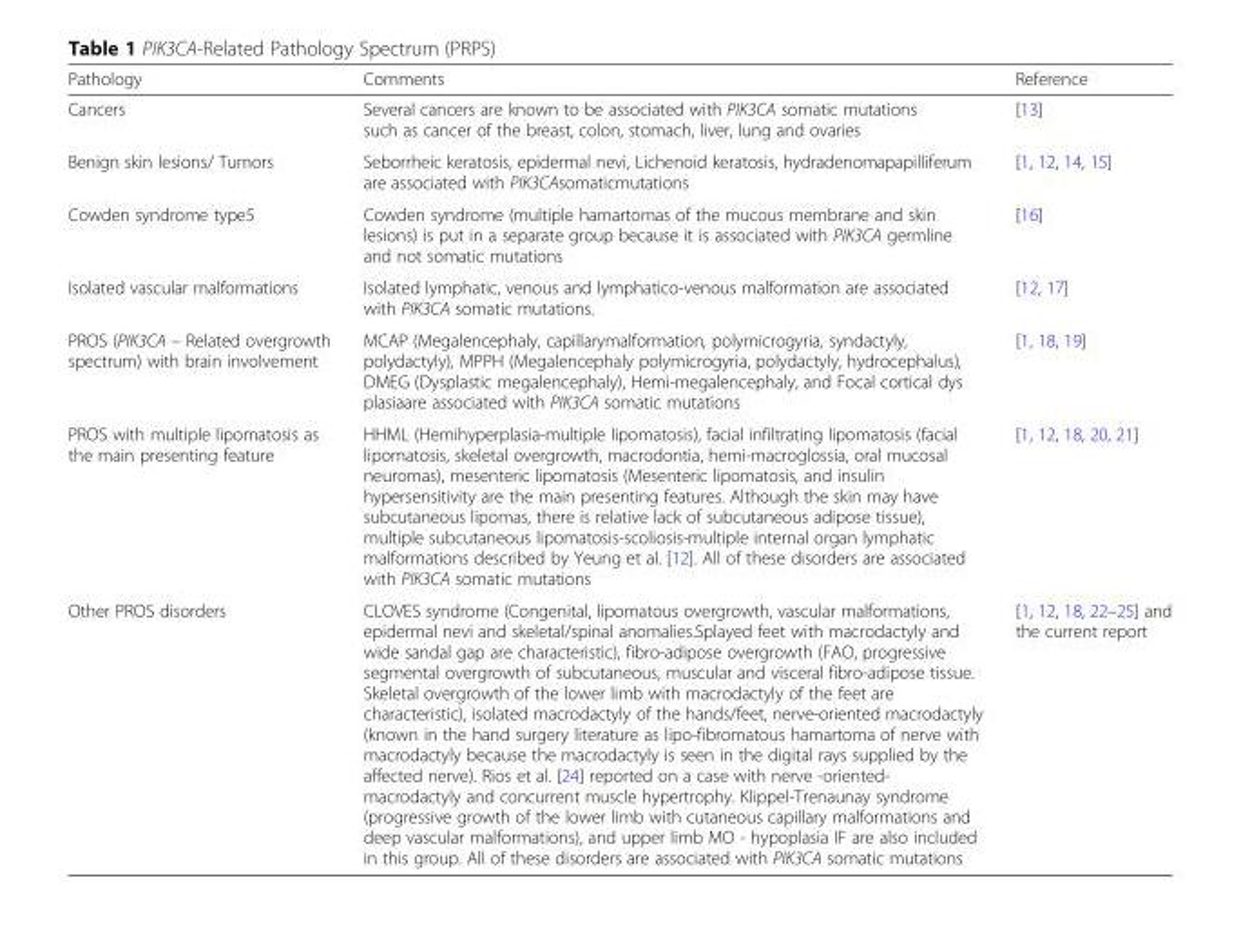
<table><thead><tr><td>Pathology</td><td>Comments</td><td>Reference</td></tr></thead><tbody><tr><td>Cancers</td><td>Several cancers are known to be associated with PIK3CA somatic mutations such as cancer of the breast, colon, stomach, liver, lung and ovaries</td><td>[13]</td></tr><tr><td>Benign skin lesions/ Tumors</td><td>Seborrheic keratosis, epidermal nevi, Lichenoid keratosis, hydradenomapapilliferum are associated with PIK3CAsomaticmutations</td><td>[1, 12, 14, 15]</td></tr><tr><td>Cowden syndrome type5</td><td>Cowden syndrome (multiple hamartomas of the mucous membrane and skin lesions) is put in a separate group because it is associated with PIK3CA germline and not somatic mutations</td><td>[16]</td></tr><tr><td>Isolated vascular malformations</td><td>Isolated lymphatic, venous and lymphatico-venous malformation are associated with PIK3CA somatic mutations.</td><td>[12, 17]</td></tr><tr><td>PROS (PIK3CA – Related overgrowth spectrum) with brain involvement</td><td>MCAP (Megalencephaly, capillarymalformation, polymicrogyria, syndactyly, polydactyly), MPPH (Megalencephaly polymicrogyria, polydactyly, hydrocephalus), DMEG (Dysplastic megalencephaly), Hemi-megalencephaly, and Focal cortical dys plasiaare associated with PIK3CA somatic mutations</td><td>[1, 18, 19]</td></tr><tr><td>PROS with multiple lipomatosis as the main presenting feature</td><td>HHML (Hemihyperplasia-multiple lipomatosis), facial infiltrating lipomatosis (facial lipomatosis, skeletal overgrowth, macrodontia, hemi-macroglossia, oral mucosal neuromas), mesenteric lipomatosis (Mesenteric lipomatosis, and insulin hypersensitivity are the main presenting features. Although the skin may have subcutaneous lipomas, there is relative lack of subcutaneous adipose tissue), multiple subcutaneous lipomatosis-scoliosis-multiple internal organ lymphatic malformations described by Yeung et al. [12]. All of these disorders are associated with PIK3CA somatic mutations</td><td>[1, 12, 18, 20, 21]</td></tr><tr><td>Other PROS disorders</td><td>CLOVES syndrome (Congenital, lipomatous overgrowth, vascular malformations, epidermal nevi and skeletal/spinal anomalies.Splayed feet with macrodactyly and wide sandal gap are characteristic), fibro-adipose overgrowth (FAO, progressive segmental overgrowth of subcutaneous, muscular and visceral fibro-adipose tissue. Skeletal overgrowth of the lower limb with macrodactyly of the feet are characteristic), isolated macrodactyly of the hands/feet, nerve-oriented macrodactyly (known in the hand surgery literature as lipo-fibromatous hamartoma of nerve with macrodactyly because the macrodactyly is seen in the digital rays supplied by the affected nerve). Rios et al. [24] reported on a case with nerve -oriented- macrodactyly and concurrent muscle hypertrophy. Klippel-Trenaunay syndrome (progressive growth of the lower limb with cutaneous capillary malformations and deep vascular malformations), and upper limb MO - hypoplasia IF are also included in this group. All of these disorders are associated with PIK3CA somatic mutations</td><td>[1, 12, 18, 22–25] and the current report</td></tr></tbody></table>